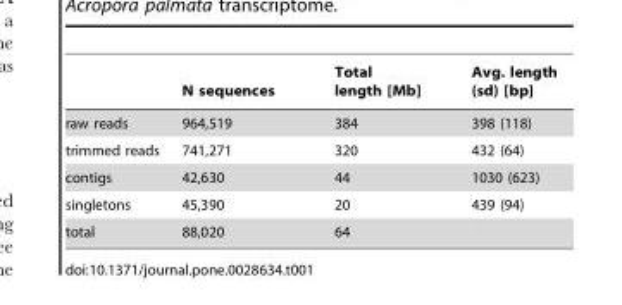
<table><thead><tr><td></td><td>N sequences</td><td>Total length [Mb]</td><td>Avg. length (sd) [bp]</td></tr></thead><tbody><tr><td>raw reads</td><td>964,519</td><td>384</td><td>398 (118)</td></tr><tr><td>trimmed reads</td><td>741,271</td><td>320</td><td>432 (64)</td></tr><tr><td>contigs</td><td>42,630</td><td>44</td><td>1030 (623)</td></tr><tr><td>singletons</td><td>45,390</td><td>20</td><td>439 (94)</td></tr><tr><td>total</td><td>88,020</td><td>64</td><td></td></tr></tbody></table>